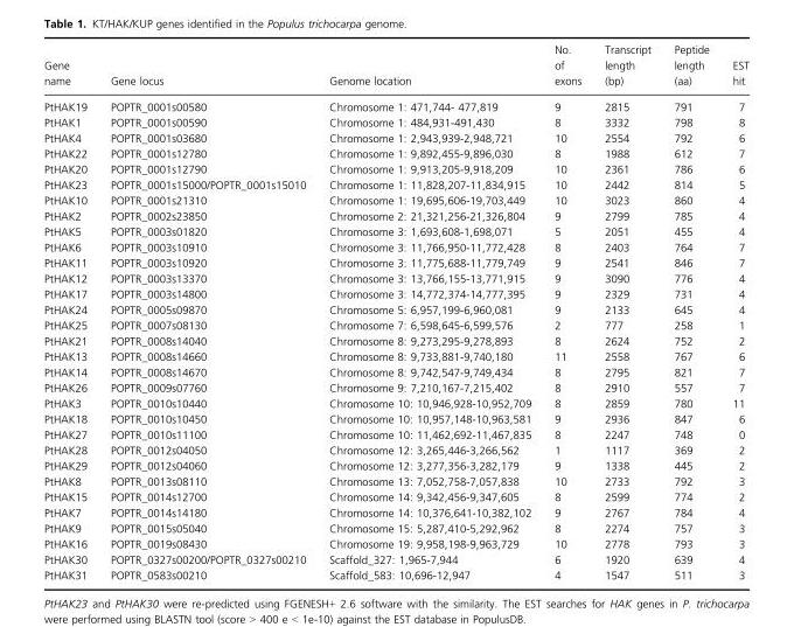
<table><thead><tr><td>Gene name</td><td>Gene locus</td><td>Genome location</td><td>No. of exons</td><td>Transcript length (bp)</td><td>Peptide length (aa)</td><td>EST hit</td></tr></thead><tbody><tr><td>PtHAK19</td><td>POPTR_0001s00580</td><td>Chromosome 1: 471,744- 477,819</td><td>9</td><td>2815</td><td>791</td><td>7</td></tr><tr><td>PtHAK1</td><td>POPTR_0001s00590</td><td>Chromosome 1: 484,931-491,430</td><td>8</td><td>3332</td><td>798</td><td>8</td></tr><tr><td>PtHAK4</td><td>POPTR_0001s03680</td><td>Chromosome 1: 2,943,939-2,948,721</td><td>10</td><td>2554</td><td>792</td><td>6</td></tr><tr><td>PtHAK22</td><td>POPTR_0001s12780</td><td>Chromosome 1: 9,892,455-9,896,030</td><td>8</td><td>1988</td><td>612</td><td>7</td></tr><tr><td>PtHAK20</td><td>POPTR_0001s12790</td><td>Chromosome 1: 9,913,205-9,918,209</td><td>10</td><td>2361</td><td>786</td><td>6</td></tr><tr><td>PtHAK23</td><td>POPTR_0001s15000/POPTR_0001s15010</td><td>Chromosome 1: 11,828,207-11,834,915</td><td>10</td><td>2442</td><td>814</td><td>5</td></tr><tr><td>PtHAK10</td><td>POPTR_0001s21310</td><td>Chromosome 1: 19,695,606-19,703,449</td><td>10</td><td>3023</td><td>860</td><td>4</td></tr><tr><td>PtHAK2</td><td>POPTR_0002s23850</td><td>Chromosome 2: 21,321,256-21,326,804</td><td>9</td><td>2799</td><td>785</td><td>4</td></tr><tr><td>PtHAK5</td><td>POPTR_0003s01820</td><td>Chromosome 3: 1,693,608-1,698,071</td><td>5</td><td>2051</td><td>455</td><td>4</td></tr><tr><td>PtHAK6</td><td>POPTR_0003s10910</td><td>Chromosome 3: 11,766,950-11,772,428</td><td>8</td><td>2403</td><td>764</td><td>7</td></tr><tr><td>PtHAK11</td><td>POPTR_0003s10920</td><td>Chromosome 3: 11,775,688-11,779,749</td><td>9</td><td>2541</td><td>846</td><td>7</td></tr><tr><td>PtHAK12</td><td>POPTR_0003s13370</td><td>Chromosome 3: 13,766,155-13,771,915</td><td>9</td><td>3090</td><td>776</td><td>4</td></tr><tr><td>PtHAK17</td><td>POPTR_0003s14800</td><td>Chromosome 3: 14,772,374-14,777,395</td><td>9</td><td>2329</td><td>731</td><td>4</td></tr><tr><td>PtHAK24</td><td>POPTR_0005s09870</td><td>Chromosome 5: 6,957,199-6,960,081</td><td>9</td><td>2133</td><td>645</td><td>4</td></tr><tr><td>PtHAK25</td><td>POPTR_0007s08130</td><td>Chromosome 7: 6,598,645-6,599,576</td><td>2</td><td>777</td><td>258</td><td>1</td></tr><tr><td>PtHAK21</td><td>POPTR_0008s14040</td><td>Chromosome 8: 9,273,295-9,278,893</td><td>8</td><td>2624</td><td>752</td><td>2</td></tr><tr><td>PtHAK13</td><td>POPTR_0008s14660</td><td>Chromosome 8: 9,733,881-9,740,180</td><td>11</td><td>2558</td><td>767</td><td>6</td></tr><tr><td>PtHAK14</td><td>POPTR_0008s14670</td><td>Chromosome 8: 9,742,547-9,749,434</td><td>8</td><td>2795</td><td>821</td><td>7</td></tr><tr><td>PtHAK26</td><td>POPTR_0009s07760</td><td>Chromosome 9: 7,210,167-7,215,402</td><td>8</td><td>2910</td><td>557</td><td>7</td></tr><tr><td>PtHAK3</td><td>POPTR_0010s10440</td><td>Chromosome 10: 10,946,928-10,952,709</td><td>8</td><td>2859</td><td>780</td><td>11</td></tr><tr><td>PtHAK18</td><td>POPTR_0010s10450</td><td>Chromosome 10: 10,957,148-10,963,581</td><td>9</td><td>2936</td><td>847</td><td>6</td></tr><tr><td>PtHAK27</td><td>POPTR_0010s11100</td><td>Chromosome 10: 11,462,692-11,467,835</td><td>8</td><td>2247</td><td>748</td><td>0</td></tr><tr><td>PtHAK28</td><td>POPTR_0012s04050</td><td>Chromosome 12: 3,265,446-3,266,562</td><td>1</td><td>1117</td><td>369</td><td>2</td></tr><tr><td>PtHAK29</td><td>POPTR_0012s04060</td><td>Chromosome 12: 3,277,356-3,282,179</td><td>9</td><td>1338</td><td>445</td><td>2</td></tr><tr><td>PtHAK8</td><td>POPTR_0013s08110</td><td>Chromosome 13: 7,052,758-7,057,838</td><td>10</td><td>2733</td><td>792</td><td>3</td></tr><tr><td>PtHAK15</td><td>POPTR_0014s12700</td><td>Chromosome 14: 9,342,456-9,347,605</td><td>8</td><td>2599</td><td>774</td><td>2</td></tr><tr><td>PtHAK7</td><td>POPTR_0014s14180</td><td>Chromosome 14: 10,376,641-10,382,102</td><td>9</td><td>2767</td><td>784</td><td>4</td></tr><tr><td>PtHAK9</td><td>POPTR_0015s05040</td><td>Chromosome 15: 5,287,410-5,292,962</td><td>8</td><td>2274</td><td>757</td><td>3</td></tr><tr><td>PtHAK16</td><td>POPTR_0019s08430</td><td>Chromosome 19: 9,958,198-9,963,729</td><td>10</td><td>2778</td><td>793</td><td>3</td></tr><tr><td>PtHAK30</td><td>POPTR_0327s00200/POPTR_0327s00210</td><td>Scaffold_327: 1,965-7,944</td><td>6</td><td>1920</td><td>639</td><td>4</td></tr><tr><td>PtHAK31</td><td>POPTR_0583s00210</td><td>Scaffold_583: 10,696-12,947</td><td>4</td><td>1547</td><td>511</td><td>3</td></tr></tbody></table>